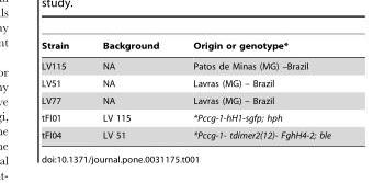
<table><thead><tr><td>Strain</td><td>Background</td><td>Origin or genotype*</td></tr></thead><tbody><tr><td>LV115</td><td>NA</td><td>Patos de Minas (MG) –Brazil</td></tr><tr><td>LV51</td><td>NA</td><td>Lavras (MG) – Brazil</td></tr><tr><td>LV77</td><td>NA</td><td>Lavras (MG) – Brazil</td></tr><tr><td>tFI01</td><td>LV 115</td><td>*Pccg-1-hH1-sgfp; hph</td></tr><tr><td>tFI04</td><td>LV 51</td><td>*Pccg-1- tdimer2(12)- FghH4-2; ble</td></tr></tbody></table>